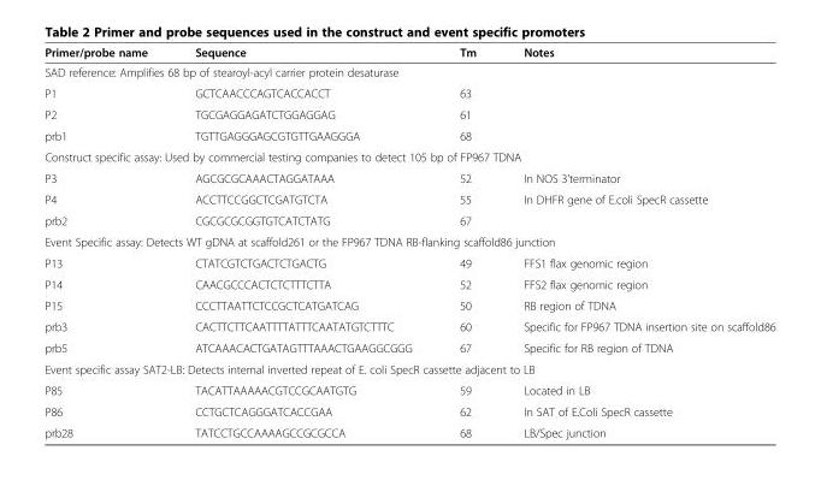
<table><thead><tr><td>Primer/probe name</td><td>Sequence</td><td>Tm</td><td>Notes</td></tr></thead><tbody><tr><td colspan="4">SAD reference: Amplifies 68 bp of stearoyl-acyl carrier protein desaturase</td></tr><tr><td>P1</td><td>GCTCAACCCAGTCACCACCT</td><td>63</td><td></td></tr><tr><td>P2</td><td>TGCGAGGAGATCTGGAGGAG</td><td>61</td><td></td></tr><tr><td>prb1</td><td>TGTTGAGGGAGCGTGTTGAAGGGA</td><td>68</td><td></td></tr><tr><td colspan="4">Construct specific assay: Used by commercial testing companies to detect 105 bp of FP967 TDNA</td></tr><tr><td>P3</td><td>AGCGCGCAAACTAGGATAAA</td><td>52</td><td>In NOS 3’terminator</td></tr><tr><td>P4</td><td>ACCTTCCGGCTCGATGTCTA</td><td>55</td><td>In DHFR gene of E.coli SpecR cassette</td></tr><tr><td>prb2</td><td>CGCGCGCGGTGTCATCTATG</td><td>67</td><td></td></tr><tr><td colspan="4">Event Specific assay: Detects WT gDNA at scaffold261 or the FP967 TDNA RB-flanking scaffold86 junction</td></tr><tr><td>P13</td><td>CTATCGTCTGACTCTGACTG</td><td>49</td><td>FFS1 flax genomic region</td></tr><tr><td>P14</td><td>CAACGCCCACTCTCTTTCTTA</td><td>52</td><td>FFS2 flax genomic region</td></tr><tr><td>P15</td><td>CCCTTAATTCTCCGCTCATGATCAG</td><td>50</td><td>RB region of TDNA</td></tr><tr><td>prb3</td><td>CACTTCTTCAATTTTATTTCAATATGTCTTTC</td><td>60</td><td>Specific for FP967 TDNA insertion site on scaffold86</td></tr><tr><td>prb5</td><td>ATCAAACACTGATAGTTTAAACTGAAGGCGGG</td><td>67</td><td>Specific for RB region of TDNA</td></tr><tr><td colspan="4">Event specific assay SAT2-LB: Detects internal inverted repeat of E. coli SpecR cassette adjacent to LB</td></tr><tr><td>P85</td><td>TACATTAAAAACGTCCGCAATGTG</td><td>59</td><td>Located in LB</td></tr><tr><td>P86</td><td>CCTGCTCAGGGATCACCGAA</td><td>62</td><td>In SAT of E.Coli SpecR cassette</td></tr><tr><td>prb28</td><td>TATCCTGCCAAAAGCCGCGCCA</td><td>68</td><td>LB/Spec junction</td></tr></tbody></table>